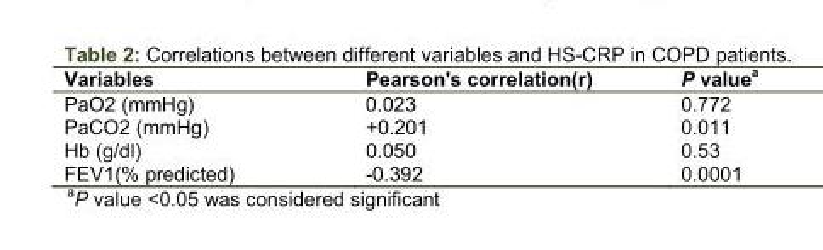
<table><thead><tr><td>Variables</td><td>Pearson&#x27;s correlation(r)</td><td>P value<sup>a</sup></td></tr></thead><tbody><tr><td>PaO2 (mmHg)</td><td>0.023</td><td>0.772</td></tr><tr><td>PaCO2 (mmHg)</td><td>+0.201</td><td>0.011</td></tr><tr><td>Hb (g/dl)</td><td>0.050</td><td>0.53</td></tr><tr><td>FEV1(% predicted)</td><td>-0.392</td><td>0.0001</td></tr></tbody></table>